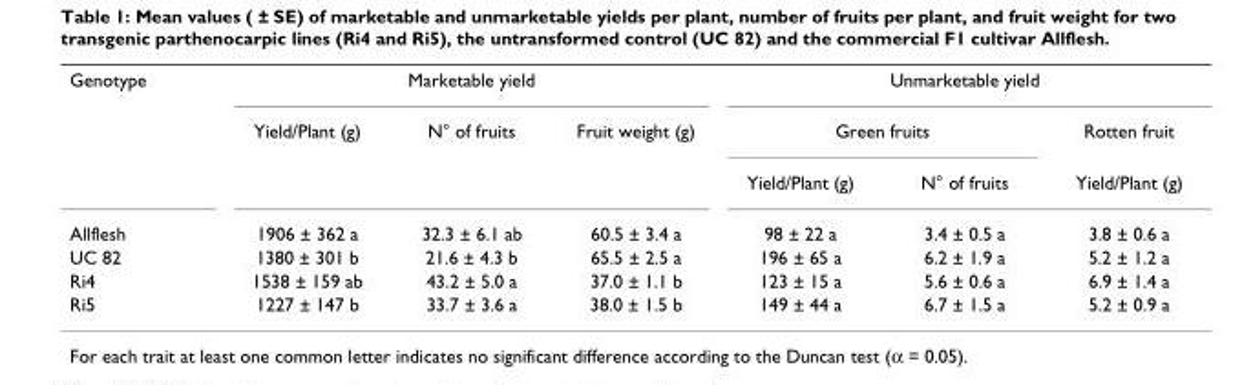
<table><tbody><tr><td rowspan="3">Genotype</td><td colspan="3">Marketable yield</td><td colspan="3">Unmarketable yield</td></tr><tr><td>Yield/Plant (g)</td><td>N° of fruits</td><td>Fruit weight (g)</td><td colspan="2">Green fruits</td><td>Rotten fruit</td></tr><tr><td></td><td></td><td></td><td>Yield/Plant (g)</td><td>N° of fruits</td><td>Yield/Plant (g)</td></tr><tr><td>Allflesh</td><td>1906 ± 362 a</td><td>32.3 ± 6.1 ab</td><td>60.5 ± 3.4 a</td><td>98 ± 22 a</td><td>3.4 ± 0.5 a</td><td>3.8 ± 0.6 a</td></tr><tr><td>UC 82</td><td>1380 ± 301 b</td><td>21.6 ± 4.3 b</td><td>65.5 ± 2.5 a</td><td>196 ± 65 a</td><td>6.2 ± 1.9 a</td><td>5.2 ± 1.2 a</td></tr><tr><td>Ri4</td><td>1538 ± 159 ab</td><td>43.2 ± 5.0 a</td><td>37.0 ± 1.1 b</td><td>123 ± 15 a</td><td>5.6 ± 0.6 a</td><td>6.9 ± 1.4 a</td></tr><tr><td>Ri5</td><td>1227 ± 147 b</td><td>33.7 ± 3.6 a</td><td>38.0 ± 1.5 b</td><td>149 ± 44 a</td><td>6.7 ± 1.5 a</td><td>5.2 ± 0.9 a</td></tr></tbody></table>